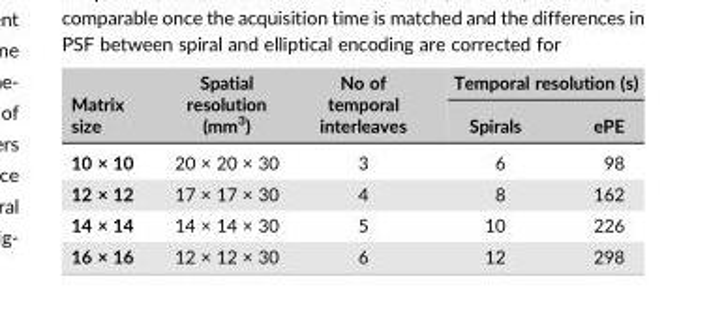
<table><thead><tr><td rowspan="2">Matrix size</td><td rowspan="2">Spatial resolution (mm<sup>3</sup>)</td><td rowspan="2">No of temporal interleaves</td><td colspan="2">Temporal resolution (s)</td></tr><tr><td>Spirals</td><td>ePE</td></tr></thead><tbody><tr><td>10 × 10</td><td>20 × 20 × 30</td><td>3</td><td>6</td><td>98</td></tr><tr><td>12 × 12</td><td>17 × 17 × 30</td><td>4</td><td>8</td><td>162</td></tr><tr><td>14 × 14</td><td>14 × 14 × 30</td><td>5</td><td>10</td><td>226</td></tr><tr><td>16 × 16</td><td>12 × 12 × 30</td><td>6</td><td>12</td><td>298</td></tr></tbody></table>